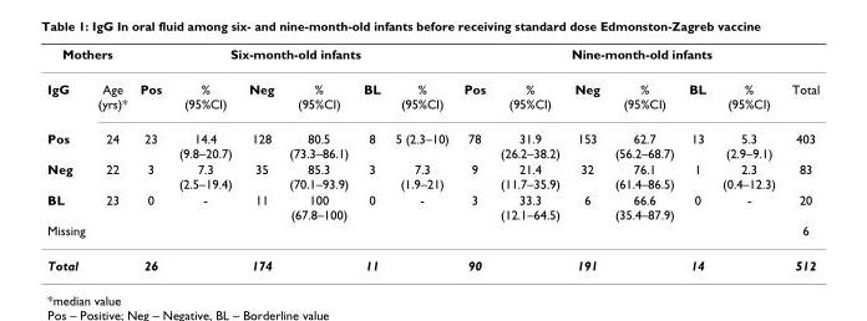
<table><thead><tr><td colspan="2">Mothers</td><td colspan="6">Six-month-old infants</td><td colspan="7">Nine-month-old infants</td></tr><tr><td>IgG</td><td>Age (yrs)*</td><td>Pos</td><td>% (95%CI)</td><td>Neg</td><td>% (95%CI)</td><td>BL</td><td>% (95%CI)</td><td>Pos</td><td>% (95%CI)</td><td>Neg</td><td>% (95%CI)</td><td>BL</td><td>% (95%CI)</td><td>Total</td></tr></thead><tbody><tr><td>Pos</td><td>24</td><td>23</td><td>14.4 (9.8–20.7)</td><td>128</td><td>80.5 (73.3–86.1)</td><td>8</td><td>5 (2.3–10)</td><td>78</td><td>31.9 (26.2–38.2)</td><td>153</td><td>62.7 (56.2–68.7)</td><td>13</td><td>5.3 (2.9–9.1)</td><td>403</td></tr><tr><td>Neg</td><td>22</td><td>3</td><td>7.3 (2.5–19.4)</td><td>35</td><td>85.3 (70.1–93.9)</td><td>3</td><td>7.3 (1.9–21)</td><td>9</td><td>21.4 (11.7–35.9)</td><td>32</td><td>76.1 (61.4–86.5)</td><td>1</td><td>2.3 (0.4–12.3)</td><td>83</td></tr><tr><td>BL</td><td>23</td><td>0</td><td>-</td><td>11</td><td>100 (67.8–100)</td><td>0</td><td>-</td><td>3</td><td>33.3 (12.1–64.5)</td><td>6</td><td>66.6 (35.4–87.9)</td><td>0</td><td>-</td><td>20</td></tr><tr><td>Missing</td><td></td><td></td><td></td><td></td><td></td><td></td><td></td><td></td><td></td><td></td><td></td><td></td><td></td><td>6</td></tr><tr><td>Total</td><td></td><td>26</td><td></td><td>174</td><td></td><td>11</td><td></td><td>90</td><td></td><td>191</td><td></td><td>14</td><td></td><td>512</td></tr></tbody></table>